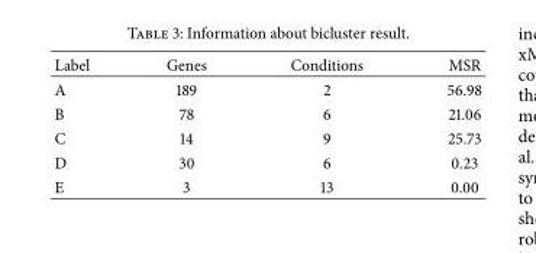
<table><thead><tr><td>Label</td><td>Genes</td><td>Conditions</td><td>MSR</td></tr></thead><tbody><tr><td>A</td><td>189</td><td>2</td><td>56.98</td></tr><tr><td>B</td><td>78</td><td>6</td><td>21.06</td></tr><tr><td>C</td><td>14</td><td>9</td><td>25.73</td></tr><tr><td>D</td><td>30</td><td>6</td><td>0.23</td></tr><tr><td>E</td><td>3</td><td>13</td><td>0.00</td></tr></tbody></table>